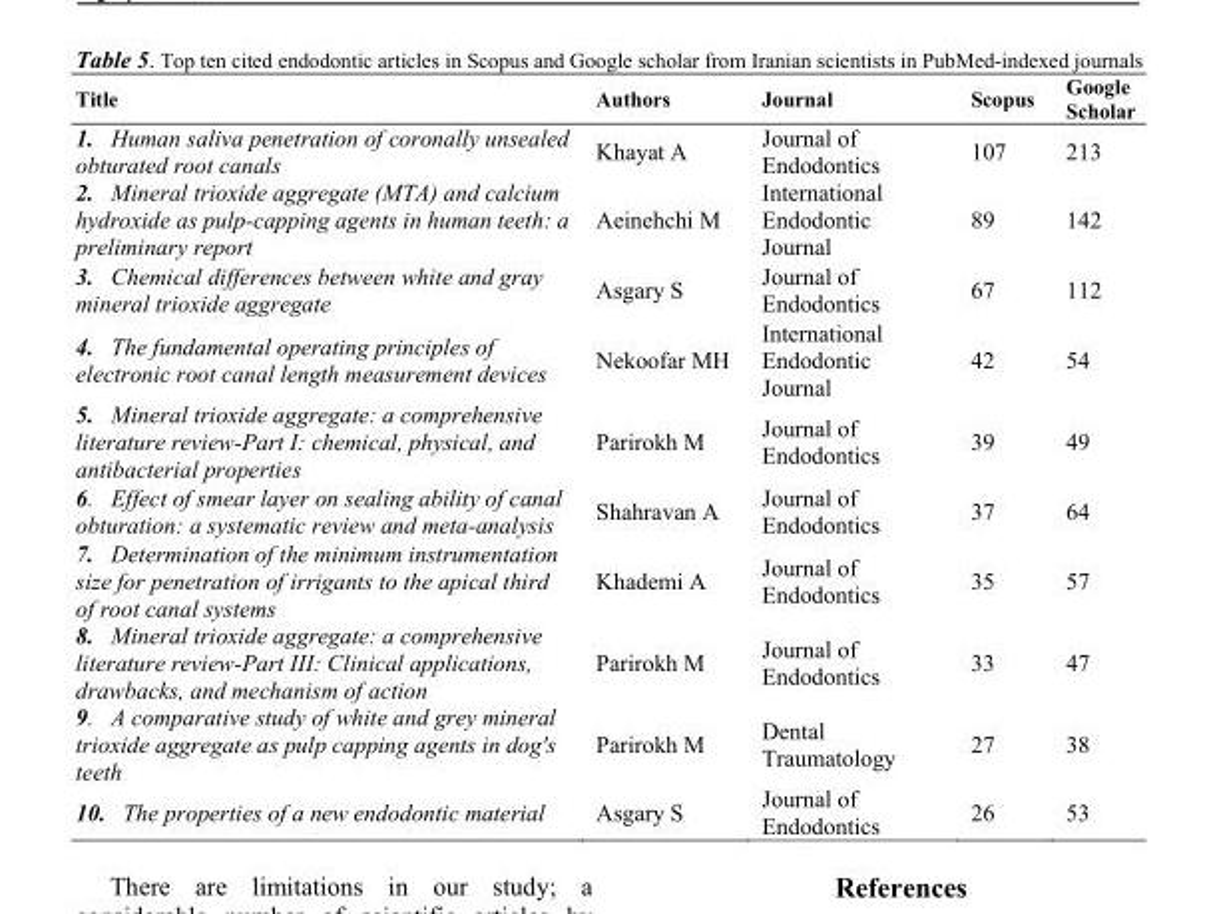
<table><thead><tr><td>Title</td><td>Authors</td><td>Journal</td><td>Scopus</td><td>Google Scholar</td></tr></thead><tbody><tr><td>1. Human saliva penetration of coronally unsealed obturated root canals</td><td>Khayat A</td><td>Journal of Endodontics</td><td>107</td><td>213</td></tr><tr><td>2. Mineral trioxide aggregate (MTA) and calcium hydroxide as pulp-capping agents in human teeth: a preliminary report</td><td>Aeinehchi M</td><td>International Endodontic Journal</td><td>89</td><td>142</td></tr><tr><td>3. Chemical differences between white and gray mineral trioxide aggregate</td><td>Asgary S</td><td>Journal of Endodontics</td><td>67</td><td>112</td></tr><tr><td>4. The fundamental operating principles of electronic root canal length measurement devices</td><td>Nekoofar MH</td><td>International Endodontic Journal</td><td>42</td><td>54</td></tr><tr><td>5. Mineral trioxide aggregate: a comprehensive literature review-Part I: chemical, physical, and antibacterial properties</td><td>Parirokh M</td><td>Journal of Endodontics</td><td>39</td><td>49</td></tr><tr><td>6. Effect of smear layer on sealing ability of canal obturation: a systematic review and meta-analysis</td><td>Shahravan A</td><td>Journal of Endodontics</td><td>37</td><td>64</td></tr><tr><td>7. Determination of the minimum instrumentation size for penetration of irrigants to the apical third of root canal systems</td><td>Khademi A</td><td>Journal of Endodontics</td><td>35</td><td>57</td></tr><tr><td>8. Mineral trioxide aggregate: a comprehensive literature review-Part III: Clinical applications, drawbacks, and mechanism of action</td><td>Parirokh M</td><td>Journal of Endodontics</td><td>33</td><td>47</td></tr><tr><td>9. A comparative study of white and grey mineral trioxide aggregate as pulp capping agents in dog&#x27;s teeth</td><td>Parirokh M</td><td>Dental Traumatology</td><td>27</td><td>38</td></tr><tr><td>10. The properties of a new endodontic material</td><td>Asgary S</td><td>Journal of Endodontics</td><td>26</td><td>53</td></tr></tbody></table>